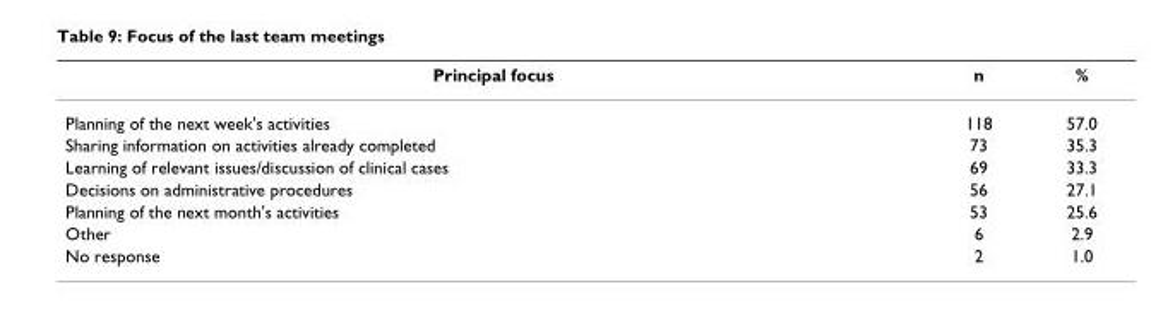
<table><thead><tr><td>Principal focus</td><td>n</td><td>%</td></tr></thead><tbody><tr><td>Planning of the next week&#x27;s activities</td><td>118</td><td>57.0</td></tr><tr><td>Sharing information on activities already completed</td><td>73</td><td>35.3</td></tr><tr><td>Learning of relevant issues/discussion of clinical cases</td><td>69</td><td>33.3</td></tr><tr><td>Decisions on administrative procedures</td><td>56</td><td>27.1</td></tr><tr><td>Planning of the next month&#x27;s activities</td><td>53</td><td>25.6</td></tr><tr><td>Other</td><td>6</td><td>2.9</td></tr><tr><td>No response</td><td>2</td><td>1.0</td></tr></tbody></table>